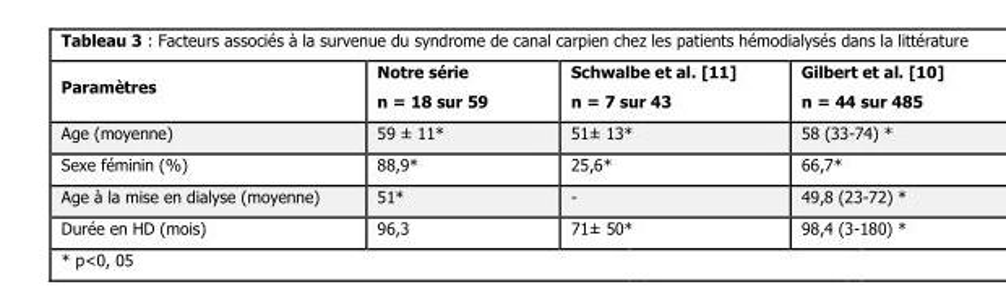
<table><thead><tr><td>Paramètres</td><td>Notre série n = 18 sur 59</td><td>Schwalbe et al. [11] n = 7 sur 43</td><td>Gilbert et al. [10] n = 44 sur 485</td></tr></thead><tbody><tr><td>Age (moyenne)</td><td>59 ± 11*</td><td>51± 13*</td><td>58 (33-74) *</td></tr><tr><td>Sexe féminin (%)</td><td>88,9*</td><td>25,6*</td><td>66,7*</td></tr><tr><td>Age à la mise en dialyse (moyenne)</td><td>51*</td><td>-</td><td>49,8 (23-72) *</td></tr><tr><td>Durée en HD (mois)</td><td>96,3</td><td>71± 50*</td><td>98,4 (3-180) *</td></tr></tbody></table>